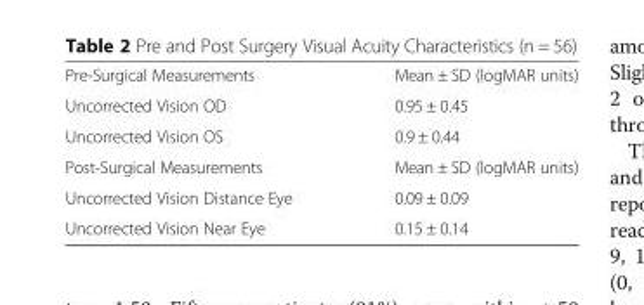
<table><tbody><tr><td>Pre-Surgical Measurements</td><td>Mean ± SD (logMAR units)</td></tr><tr><td>Uncorrected Vision OD</td><td>0.95 ± 0.45</td></tr><tr><td>Uncorrected Vision OS</td><td>0.9 ± 0.44</td></tr><tr><td>Post-Surgical Measurements</td><td>Mean ± SD (logMAR units)</td></tr><tr><td>Uncorrected Vision Distance Eye</td><td>0.09 ± 0.09</td></tr><tr><td>Uncorrected Vision Near Eye</td><td>0.15 ± 0.14</td></tr></tbody></table>